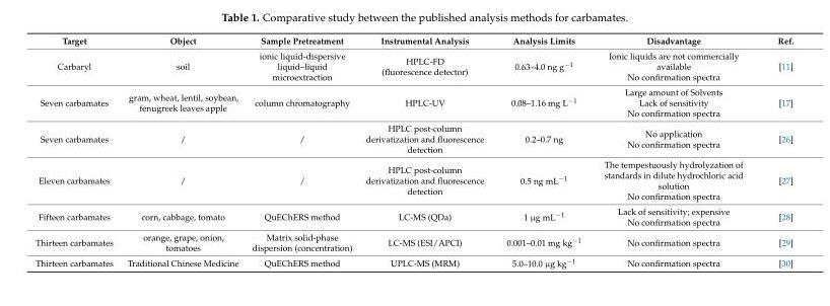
<table><thead><tr><td>Target</td><td>Object</td><td>Sample Pretreatment</td><td>Instrumental Analysis</td><td>Analysis Limits</td><td>Disadvantage</td><td>Ref.</td></tr></thead><tbody><tr><td>Carbaryl</td><td>soil</td><td>ionic liquid-dispersive liquid–liquid microextraction</td><td>HPLC-FD (fluorescence detector)</td><td>0.63–4.0 ng g<sup>−1</sup></td><td>Ionic liquids are not commercially available No confirmation spectra</td><td>[11]</td></tr><tr><td>Seven carbamates</td><td>gram, wheat, lentil, soybean, fenugreek leaves apple</td><td>column chromatography</td><td>HPLC-UV</td><td>0.08–1.16 mg L<sup>−1</sup></td><td>Large amount of Solvents Lack of sensitivity No confirmation spectra</td><td>[17]</td></tr><tr><td>Seven carbamates</td><td>/</td><td>/</td><td>HPLC post-column derivatization and fluorescence detection</td><td>0.2–0.7 ng</td><td>No application No confirmation spectra</td><td>[26]</td></tr><tr><td>Eleven carbamates</td><td>/</td><td>/</td><td>HPLC post-column derivatization and fluorescence detection</td><td>0.5 ng mL<sup>−1</sup></td><td>The tempestuously hydrolyzation of standards in dilute hydrochloric acid solution No confirmation spectra</td><td>[27]</td></tr><tr><td>Fifteen carbamates</td><td>corn, cabbage, tomato</td><td>QuEChERS method</td><td>LC-MS (QDa)</td><td>1 µg mL<sup>−1</sup></td><td>Lack of sensitivity; expensive No confirmation spectra</td><td>[28]</td></tr><tr><td>Thirteen carbamates</td><td>orange, grape, onion, tomatoes</td><td>Matrix solid-phase dispersion (concentration)</td><td>LC-MS (ESI/APCI)</td><td>0.001–0.01 mg kg<sup>−1</sup></td><td>No confirmation spectra</td><td>[29]</td></tr><tr><td>Thirteen carbamates</td><td>Traditional Chinese Medicine</td><td>QuEChERS method</td><td>UPLC-MS (MRM)</td><td>5.0–10.0 µg kg<sup>−1</sup></td><td>No confirmation spectra</td><td>[30]</td></tr></tbody></table>